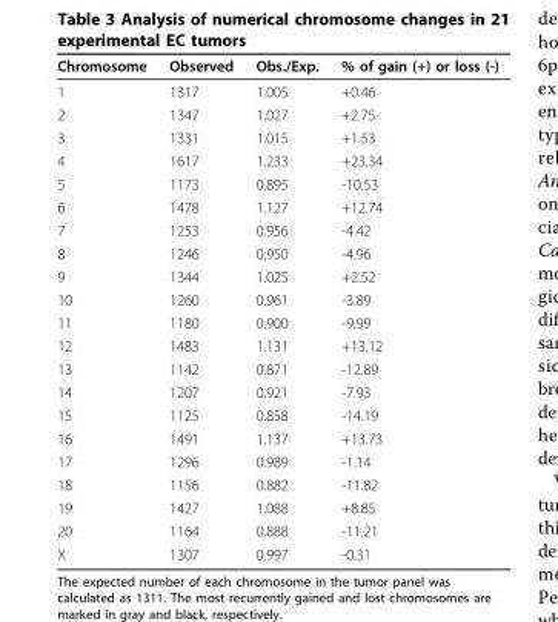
<table><thead><tr><td>Chromosome</td><td>Observed</td><td>Obs./Exp.</td><td>% of gain (+) or loss (-)</td></tr></thead><tbody><tr><td>1</td><td>1317</td><td>1.005</td><td>+0.46</td></tr><tr><td>2</td><td>1347</td><td>1.027</td><td>+2.75</td></tr><tr><td>3</td><td>1331</td><td>1.015</td><td>+1.53</td></tr><tr><td>4</td><td>1617</td><td>1.233</td><td>+23.34</td></tr><tr><td>5</td><td>1173</td><td>0.895</td><td>-10.53</td></tr><tr><td>6</td><td>1478</td><td>1.127</td><td>+12.74</td></tr><tr><td>7</td><td>1253</td><td>0.956</td><td>-4.42</td></tr><tr><td>8</td><td>1246</td><td>0.950</td><td>-4.96</td></tr><tr><td>9</td><td>1344</td><td>1.025</td><td>+2.52</td></tr><tr><td>10</td><td>1260</td><td>0.961</td><td>-3.89</td></tr><tr><td>11</td><td>1180</td><td>0.900</td><td>-9.99</td></tr><tr><td>12</td><td>1483</td><td>1.131</td><td>+13.12</td></tr><tr><td>13</td><td>1142</td><td>0.871</td><td>-12.89</td></tr><tr><td>14</td><td>1207</td><td>0.921</td><td>-7.93</td></tr><tr><td>15</td><td>1125</td><td>0.858</td><td>-14.19</td></tr><tr><td>16</td><td>1491</td><td>1.137</td><td>+13.73</td></tr><tr><td>17</td><td>1296</td><td>0.989</td><td>-1.14</td></tr><tr><td>18</td><td>1156</td><td>0.882</td><td>-11.82</td></tr><tr><td>19</td><td>1427</td><td>1.088</td><td>+8.85</td></tr><tr><td>20</td><td>1164</td><td>0.888</td><td>-11.21</td></tr><tr><td>X</td><td>1307</td><td>0.997</td><td>-0.31</td></tr></tbody></table>